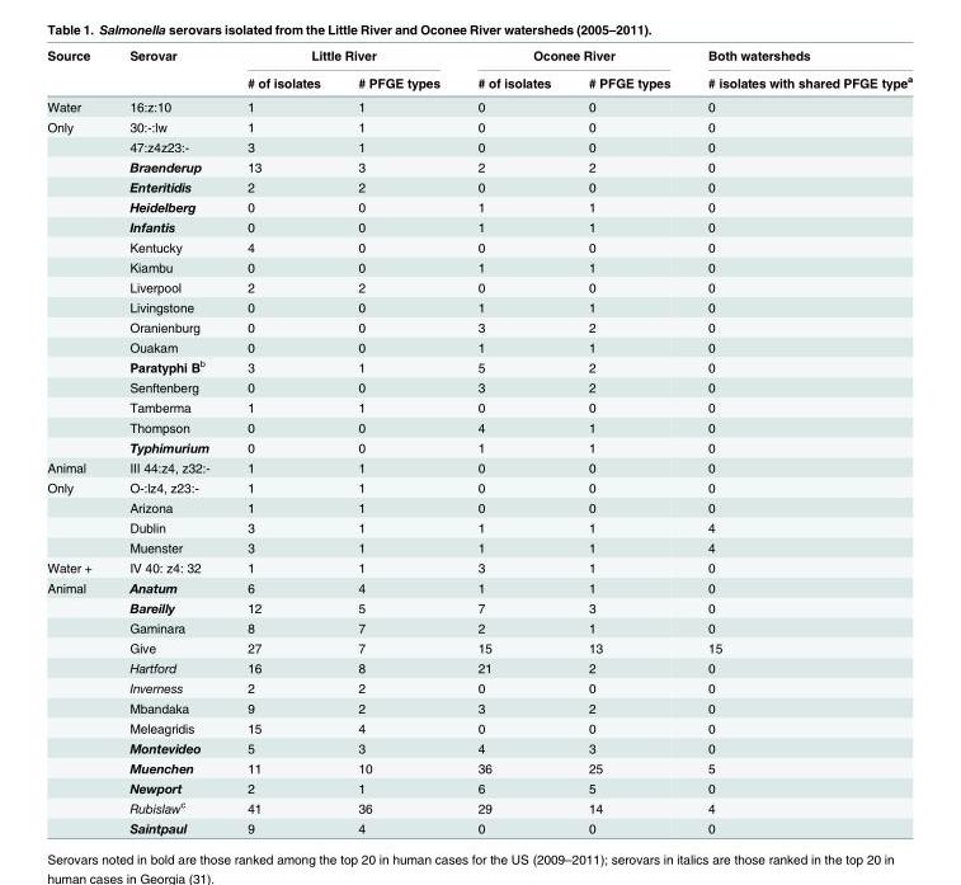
<table><thead><tr><td rowspan="2">Source</td><td rowspan="2">Serovar</td><td colspan="2">Little River</td><td colspan="2">Oconee River</td><td rowspan="2">Both watersheds # isolates with shared PFGE type<sup>a</sup></td></tr><tr><td># of isolates</td><td># PFGE types</td><td># of isolates</td><td># PFGE types</td></tr></thead><tbody><tr><td>Water</td><td>16:z:10</td><td>1</td><td>1</td><td>0</td><td>0</td><td>0</td></tr><tr><td rowspan="17">Only</td><td>30:-:lw</td><td>1</td><td>1</td><td>0</td><td>0</td><td>0</td></tr><tr><td>47:z4z23:-</td><td>3</td><td>1</td><td>0</td><td>0</td><td>0</td></tr><tr><td>Braenderup</td><td>13</td><td>3</td><td>2</td><td>2</td><td>0</td></tr><tr><td>Enteritidis</td><td>2</td><td>2</td><td>0</td><td>0</td><td>0</td></tr><tr><td>Heidelberg</td><td>0</td><td>0</td><td>1</td><td>1</td><td>0</td></tr><tr><td>Infantis</td><td>0</td><td>0</td><td>1</td><td>1</td><td>0</td></tr><tr><td>Kentucky</td><td>4</td><td>0</td><td>0</td><td>0</td><td>0</td></tr><tr><td>Kiambu</td><td>0</td><td>0</td><td>1</td><td>1</td><td>0</td></tr><tr><td>Liverpool</td><td>2</td><td>2</td><td>0</td><td>0</td><td>0</td></tr><tr><td>Livingstone</td><td>0</td><td>0</td><td>1</td><td>1</td><td>0</td></tr><tr><td>Oranienburg</td><td>0</td><td>0</td><td>3</td><td>2</td><td>0</td></tr><tr><td>Ouakam</td><td>0</td><td>0</td><td>1</td><td>1</td><td>0</td></tr><tr><td>Paratyphi B<sup>b</sup></td><td>3</td><td>1</td><td>5</td><td>2</td><td>0</td></tr><tr><td>Senftenberg</td><td>0</td><td>0</td><td>3</td><td>2</td><td>0</td></tr><tr><td>Tamberma</td><td>1</td><td>1</td><td>0</td><td>0</td><td>0</td></tr><tr><td>Thompson</td><td>0</td><td>0</td><td>4</td><td>1</td><td>0</td></tr><tr><td>Typhimurium</td><td>0</td><td>0</td><td>1</td><td>1</td><td>0</td></tr><tr><td>Animal</td><td>III 44:z4, z32:-</td><td>1</td><td>1</td><td>0</td><td>0</td><td>0</td></tr><tr><td rowspan="4">Only</td><td>O-:lz4, z23:-</td><td>1</td><td>1</td><td>0</td><td>0</td><td>0</td></tr><tr><td>Arizona</td><td>1</td><td>1</td><td>0</td><td>0</td><td>0</td></tr><tr><td>Dublin</td><td>3</td><td>1</td><td>1</td><td>1</td><td>4</td></tr><tr><td>Muenster</td><td>3</td><td>1</td><td>1</td><td>1</td><td>4</td></tr><tr><td>Water +</td><td>IV 40: z4: 32</td><td>1</td><td>1</td><td>3</td><td>1</td><td>0</td></tr><tr><td rowspan="13">Animal</td><td>Anatum</td><td>6</td><td>4</td><td>1</td><td>1</td><td>0</td></tr><tr><td>Bareilly</td><td>12</td><td>5</td><td>7</td><td>3</td><td>0</td></tr><tr><td>Gaminara</td><td>8</td><td>7</td><td>2</td><td>1</td><td>0</td></tr><tr><td>Give</td><td>27</td><td>7</td><td>15</td><td>13</td><td>15</td></tr><tr><td>Hartford</td><td>16</td><td>8</td><td>21</td><td>2</td><td>0</td></tr><tr><td>Inverness</td><td>2</td><td>2</td><td>0</td><td>0</td><td>0</td></tr><tr><td>Mbandaka</td><td>9</td><td>2</td><td>3</td><td>2</td><td>0</td></tr><tr><td>Meleagridis</td><td>15</td><td>4</td><td>0</td><td>0</td><td>0</td></tr><tr><td>Montevideo</td><td>5</td><td>3</td><td>4</td><td>3</td><td>0</td></tr><tr><td>Muenchen</td><td>11</td><td>10</td><td>36</td><td>25</td><td>5</td></tr><tr><td>Newport</td><td>2</td><td>1</td><td>6</td><td>5</td><td>0</td></tr><tr><td>Rubislaw<sup>c</sup></td><td>41</td><td>36</td><td>29</td><td>14</td><td>4</td></tr><tr><td>Saintpaul</td><td>9</td><td>4</td><td>0</td><td>0</td><td>0</td></tr></tbody></table>